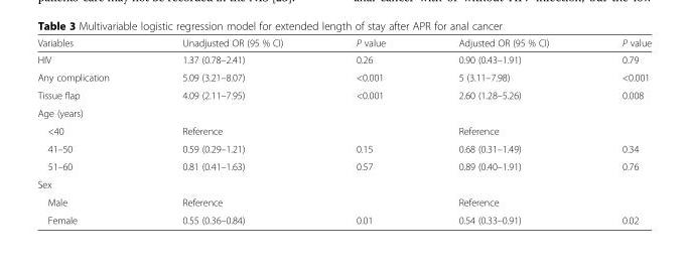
<table><thead><tr><td>Variables</td><td>Unadjusted OR (95 % CI)</td><td>P value</td><td>Adjusted OR (95 % CI)</td><td>P value</td></tr></thead><tbody><tr><td>HIV</td><td>1.37 (0.78–2.41)</td><td>0.26</td><td>0.90 (0.43–1.91)</td><td>0.79</td></tr><tr><td>Any complication</td><td>5.09 (3.21–8.07)</td><td>&lt;0.001</td><td>5 (3.11–7.98)</td><td>&lt;0.001</td></tr><tr><td>Tissue flap</td><td>4.09 (2.11–7.95)</td><td>&lt;0.001</td><td>2.60 (1.28–5.26)</td><td>0.008</td></tr><tr><td colspan="5">Age (years)</td></tr><tr><td>&lt;40</td><td>Reference</td><td></td><td>Reference</td><td></td></tr><tr><td>41–50</td><td>0.59 (0.29–1.21)</td><td>0.15</td><td>0.68 (0.31–1.49)</td><td>0.34</td></tr><tr><td>51–60</td><td>0.81 (0.41–1.63)</td><td>0.57</td><td>0.89 (0.40–1.91)</td><td>0.76</td></tr><tr><td colspan="5">Sex</td></tr><tr><td>Male</td><td>Reference</td><td></td><td>Reference</td><td></td></tr><tr><td>Female</td><td>0.55 (0.36–0.84)</td><td>0.01</td><td>0.54 (0.33–0.91)</td><td>0.02</td></tr></tbody></table>